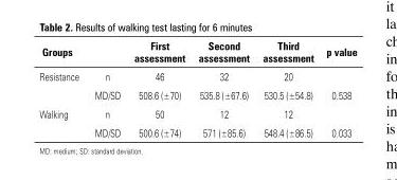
<table><thead><tr><td>Groups</td><td></td><td>First assessment</td><td>Second assessment</td><td>Third assessment</td><td>p value</td></tr></thead><tbody><tr><td rowspan="2">Resistance</td><td>n</td><td>46</td><td>32</td><td>20</td><td></td></tr><tr><td>MD/SD</td><td>508.6 (±70)</td><td>535.8 (±67.6)</td><td>530.5 (±54.8)</td><td>0.538</td></tr><tr><td rowspan="2">Walking</td><td>n</td><td>50</td><td>12</td><td>12</td><td></td></tr><tr><td>MD/SD</td><td>500.6 (±74)</td><td>571 (±85.6)</td><td>548.4 (±86.5)</td><td>0.033</td></tr></tbody></table>